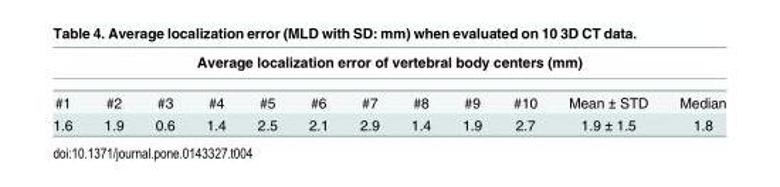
<table><thead><tr><td colspan="12">Average localization error of vertebral body centers (mm)</td></tr><tr><td>#1</td><td>#2</td><td>#3</td><td>#4</td><td>#5</td><td>#6</td><td>#7</td><td>#8</td><td>#9</td><td>#10</td><td>Mean ± STD</td><td>Median</td></tr></thead><tbody><tr><td>1.6</td><td>1.9</td><td>0.6</td><td>1.4</td><td>2.5</td><td>2.1</td><td>2.9</td><td>1.4</td><td>1.9</td><td>2.7</td><td>1.9 ± 1.5</td><td>1.8</td></tr></tbody></table>